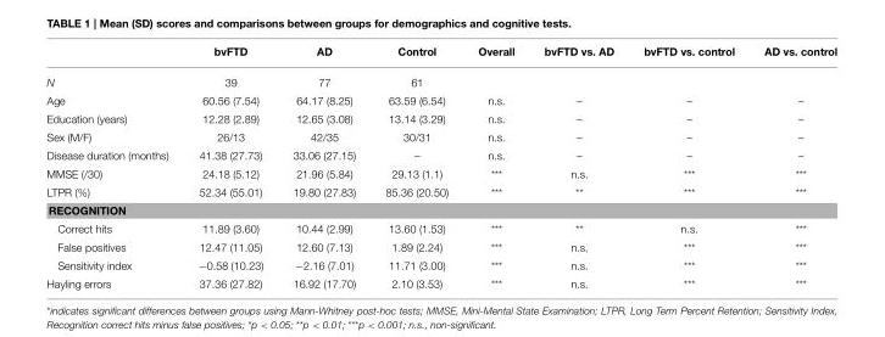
<table><thead><tr><td></td><td>bvFTD</td><td>AD</td><td>Control</td><td>Overall</td><td>bvFTD vs. AD</td><td>bvFTD vs. control</td><td>AD vs. control</td></tr></thead><tbody><tr><td>N</td><td>39</td><td>77</td><td>61</td><td></td><td></td><td></td><td></td></tr><tr><td>Age</td><td>60.56 (7.54)</td><td>64.17 (8.25)</td><td>63.59 (6.54)</td><td>n.s.</td><td>–</td><td>–</td><td>–</td></tr><tr><td>Education (years)</td><td>12.28 (2.89)</td><td>12.65 (3.08)</td><td>13.14 (3.29)</td><td>n.s.</td><td>–</td><td>–</td><td>–</td></tr><tr><td>Sex (M/F)</td><td>26/13</td><td>42/35</td><td>30/31</td><td>n.s.</td><td>–</td><td>–</td><td>–</td></tr><tr><td>Disease duration (months)</td><td>41.38 (27.73)</td><td>33.06 (27.15)</td><td>–</td><td>n.s.</td><td>–</td><td>–</td><td>–</td></tr><tr><td>MMSE (/30)</td><td>24.18 (5.12)</td><td>21.96 (5.84)</td><td>29.13 (1.1)</td><td>***</td><td>n.s.</td><td>***</td><td>***</td></tr><tr><td>LTPR (%)</td><td>52.34 (55.01)</td><td>19.80 (27.83)</td><td>85.36 (20.50)</td><td>***</td><td>**</td><td>***</td><td>***</td></tr><tr><td colspan="8">RECOGNITION</td></tr><tr><td>Correct hits</td><td>11.89 (3.60)</td><td>10.44 (2.99)</td><td>13.60 (1.53)</td><td>***</td><td>**</td><td>n.s.</td><td>***</td></tr><tr><td>False positives</td><td>12.47 (11.05)</td><td>12.60 (7.13)</td><td>1.89 (2.24)</td><td>***</td><td>n.s.</td><td>***</td><td>***</td></tr><tr><td>Sensitivity index</td><td>−0.58 (10.23)</td><td>−2.16 (7.01)</td><td>11.71 (3.00)</td><td>***</td><td>n.s.</td><td>***</td><td>***</td></tr><tr><td>Hayling errors</td><td>37.36 (27.82)</td><td>16.92 (17.70)</td><td>2.10 (3.53)</td><td>***</td><td>n.s.</td><td>***</td><td>***</td></tr></tbody></table>